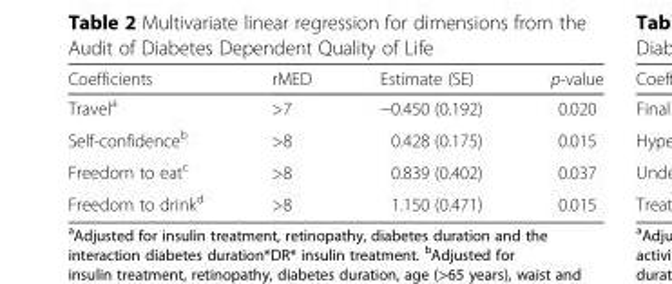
<table><thead><tr><td>Coefficients</td><td>rMED</td><td>Estimate (SE)</td><td>p-value</td></tr></thead><tbody><tr><td>Travel<sup>a</sup></td><td>&gt;7</td><td>−0.450 (0.192)</td><td>0.020</td></tr><tr><td>Self-confidence<sup>b</sup></td><td>&gt;8</td><td>0.428 (0.175)</td><td>0.015</td></tr><tr><td>Freedom to eat<sup>c</sup></td><td>&gt;8</td><td>0.839 (0.402)</td><td>0.037</td></tr><tr><td>Freedom to drink<sup>d</sup></td><td>&gt;8</td><td>1.150 (0.471)</td><td>0.015</td></tr></tbody></table>